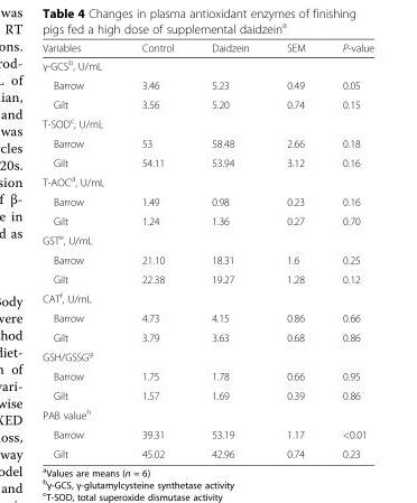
<table><thead><tr><td>Variables</td><td>Control</td><td>Daidzein</td><td>SEM</td><td>P-value</td></tr></thead><tbody><tr><td colspan="5">γ-GCS<sup>b</sup>, U/mL</td></tr><tr><td>Barrow</td><td>3.46</td><td>5.23</td><td>0.49</td><td>0.05</td></tr><tr><td>Gilt</td><td>3.56</td><td>5.20</td><td>0.74</td><td>0.15</td></tr><tr><td colspan="5">T-SOD<sup>c</sup>, U/mL</td></tr><tr><td>Barrow</td><td>53</td><td>58.48</td><td>2.66</td><td>0.18</td></tr><tr><td>Gilt</td><td>54.11</td><td>53.94</td><td>3.12</td><td>0.16</td></tr><tr><td colspan="5">T-AOC<sup>d</sup>, U/mL</td></tr><tr><td>Barrow</td><td>1.49</td><td>0.98</td><td>0.23</td><td>0.16</td></tr><tr><td>Gilt</td><td>1.24</td><td>1.36</td><td>0.27</td><td>0.70</td></tr><tr><td colspan="5">GST<sup>e</sup>, U/mL</td></tr><tr><td>Barrow</td><td>21.10</td><td>18.31</td><td>1.6</td><td>0.25</td></tr><tr><td>Gilt</td><td>22.38</td><td>19.27</td><td>1.28</td><td>0.12</td></tr><tr><td colspan="5">CAT<sup>f</sup>, U/mL</td></tr><tr><td>Barrow</td><td>4.73</td><td>4.15</td><td>0.86</td><td>0.66</td></tr><tr><td>Gilt</td><td>3.79</td><td>3.63</td><td>0.68</td><td>0.86</td></tr><tr><td colspan="5">GSH/GSSG<sup>g</sup></td></tr><tr><td>Barrow</td><td>1.75</td><td>1.78</td><td>0.66</td><td>0.95</td></tr><tr><td>Gilt</td><td>1.57</td><td>1.69</td><td>0.39</td><td>0.86</td></tr><tr><td colspan="5">PAB value<sup>h</sup></td></tr><tr><td>Barrow</td><td>39.31</td><td>53.19</td><td>1.17</td><td>&lt;0.01</td></tr><tr><td>Gilt</td><td>45.02</td><td>42.96</td><td>0.74</td><td>0.23</td></tr></tbody></table>